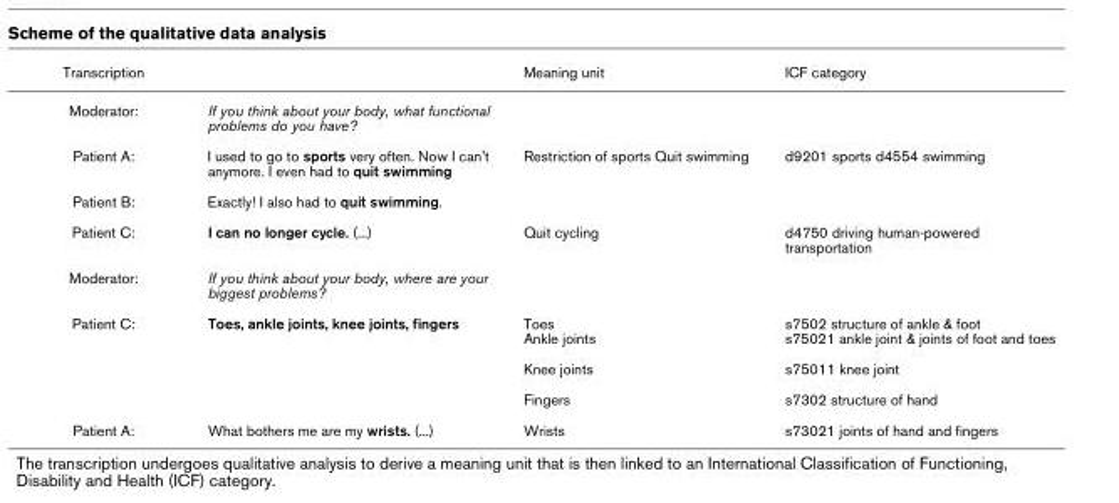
<table><thead><tr><td>Transcription</td><td></td><td>Meaning unit</td><td>ICF category</td></tr></thead><tbody><tr><td>Moderator:</td><td>If you think about your body, what functional problems do you have?</td><td></td><td></td></tr><tr><td>Patient A:</td><td>I used to go to sports very often. Now I can&#x27;t anymore. I even had to quit swimming</td><td>Restriction of sports Quit swimming</td><td>d9201 sports d4554 swimming</td></tr><tr><td>Patient B:</td><td>Exactly! I also had to quit swimming.</td><td></td><td></td></tr><tr><td>Patient C:</td><td>I can no longer cycle. (...)</td><td>Quit cycling</td><td>d4750 driving human-powered transportation</td></tr><tr><td>Moderator:</td><td>If you think about your body, where are your biggest problems?</td><td></td><td></td></tr><tr><td rowspan="3">Patient C:</td><td>Toes, ankle joints, knee joints, fingers</td><td>Toes Ankle joints</td><td>s7502 structure of ankle &amp; foot s75021 ankle joint &amp; joints of foot and toes</td></tr><tr><td></td><td>Knee joints</td><td>s75011 knee joint</td></tr><tr><td></td><td>Fingers</td><td>s7302 structure of hand</td></tr><tr><td>Patient A:</td><td>What bothers me are my wrists. (...)</td><td>Wrists</td><td>s73021 joints of hand and fingers</td></tr></tbody></table>